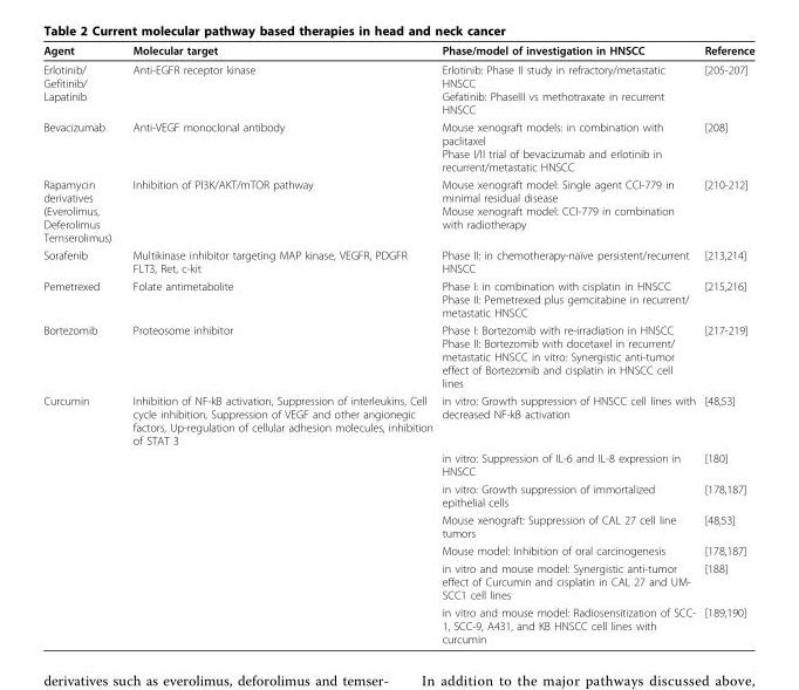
<table><thead><tr><td>Agent</td><td>Molecular target</td><td>Phase/model of investigation in HNSCC</td><td>Reference</td></tr></thead><tbody><tr><td>Erlotinib/ Gefitinib/ Lapatinib</td><td>Anti-EGFR receptor kinase</td><td>Erlotinib: Phase II study in refractory/metastatic HNSCC Gefatinib: PhaseIII vs methotraxate in recurrent HNSCC</td><td>[205-207]</td></tr><tr><td>Bevacizumab</td><td>Anti-VEGF monoclonal antibody</td><td>Mouse xenograft models: in combination with paclitaxel Phase I/II trial of bevacizumab and erlotinib in recurrent/metastatic HNSCC</td><td>[208]</td></tr><tr><td>Rapamycin derivatives (Everolimus, Deferolimus Temserolimus)</td><td>Inhibition of PI3K/AKT/mTOR pathway</td><td>Mouse xenograft model: Single agent CCI-779 in minimal residual disease Mouse xenograft model: CCI-779 in combination with radiotherapy</td><td>[210-212]</td></tr><tr><td>Sorafenib</td><td>Multikinase inhibitor targeting MAP kinase, VEGFR, PDGFR FLT3, Ret, c-kit</td><td>Phase II: in chemotherapy-naïve persistent/recurrent HNSCC</td><td>[213,214]</td></tr><tr><td>Pemetrexed</td><td>Folate antimetabolite</td><td>Phase I: in combination with cisplatin in HNSCC Phase II: Pemetrexed plus gemcitabine in recurrent/ metastatic HNSCC</td><td>[215,216]</td></tr><tr><td>Bortezomib</td><td>Proteosome inhibitor</td><td>Phase I: Bortezomib with re-irradiation in HNSCC Phase II: Bortezomib with docetaxel in recurrent/ metastatic HNSCC in vitro: Synergistic anti-tumor effect of Bortezomib and cisplatin in HNSCC cell lines</td><td>[217-219]</td></tr><tr><td rowspan="7">Curcumin</td><td>Inhibition of NF-kB activation, Suppression of interleukins, Cell cycle inhibition, Suppression of VEGF and other angionegic factors, Up-regulation of cellular adhesion molecules, inhibition of STAT 3</td><td>in vitro: Growth suppression of HNSCC cell lines with decreased NF-kB activation</td><td>[48,53]</td></tr><tr><td></td><td>in vitro: Suppression of IL-6 and IL-8 expression in HNSCC</td><td>[180]</td></tr><tr><td></td><td>in vitro: Growth suppression of immortalized epithelial cells</td><td>[178,187]</td></tr><tr><td></td><td>Mouse xenograft: Suppression of CAL 27 cell line tumors</td><td>[48,53]</td></tr><tr><td></td><td>Mouse model: Inhibition of oral carcinogenesis</td><td>[178,187]</td></tr><tr><td></td><td>in vitro and mouse model: Synergistic anti-tumor effect of Curcumin and cisplatin in CAL 27 and UM- SCC1 cell lines</td><td>[188]</td></tr><tr><td></td><td>in vitro and mouse model: Radiosensitization of SCC- 1, SCC-9, A431, and KB HNSCC cell lines with curcumin</td><td>[189,190]</td></tr></tbody></table>